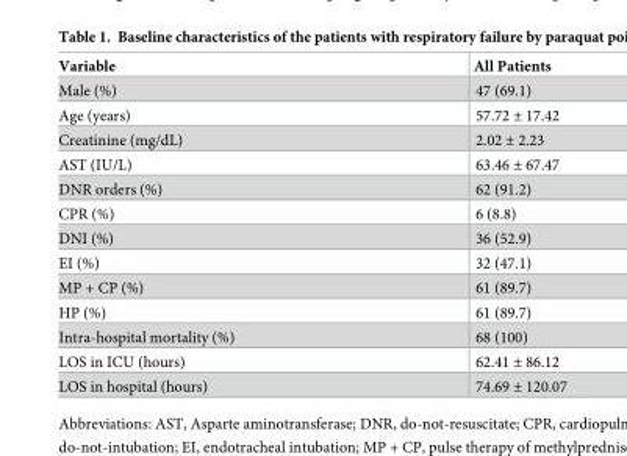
<table><thead><tr><td>Variable</td><td>All Patients</td></tr></thead><tbody><tr><td>Male (%)</td><td>47 (69.1)</td></tr><tr><td>Age (years)</td><td>57.72 ± 17.42</td></tr><tr><td>Creatinine (mg/dL)</td><td>2.02 ± 2.23</td></tr><tr><td>AST (IU/L)</td><td>63.46 ± 67.47</td></tr><tr><td>DNR orders (%)</td><td>62 (91.2)</td></tr><tr><td>CPR (%)</td><td>6 (8.8)</td></tr><tr><td>DNI (%)</td><td>36 (52.9)</td></tr><tr><td>EI (%)</td><td>32 (47.1)</td></tr><tr><td>MP + CP (%)</td><td>61 (89.7)</td></tr><tr><td>HP (%)</td><td>61 (89.7)</td></tr><tr><td>Intra-hospital mortality (%)</td><td>68 (100)</td></tr><tr><td>LOS in ICU (hours)</td><td>62.41 ± 86.12</td></tr><tr><td>LOS in hospital (hours)</td><td>74.69 ± 120.07</td></tr></tbody></table>